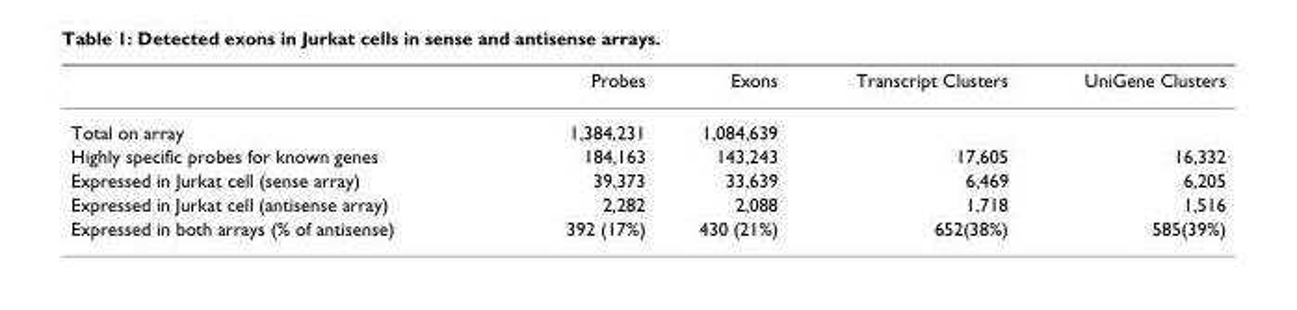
<table><thead><tr><td></td><td>Probes</td><td>Exons</td><td>Transcript Clusters</td><td>UniGene Clusters</td></tr></thead><tbody><tr><td>Total on array</td><td>1,384,231</td><td>1,084,639</td><td></td><td></td></tr><tr><td>Highly specific probes for known genes</td><td>184,163</td><td>143,243</td><td>17,605</td><td>16,332</td></tr><tr><td>Expressed in Jurkat cell (sense array)</td><td>39,373</td><td>33,639</td><td>6,469</td><td>6,205</td></tr><tr><td>Expressed in Jurkat cell (antisense array)</td><td>2,282</td><td>2,088</td><td>1,718</td><td>1,516</td></tr><tr><td>Expressed in both arrays (% of antisense)</td><td>392 (17%)</td><td>430 (21%)</td><td>652(38%)</td><td>585(39%)</td></tr></tbody></table>